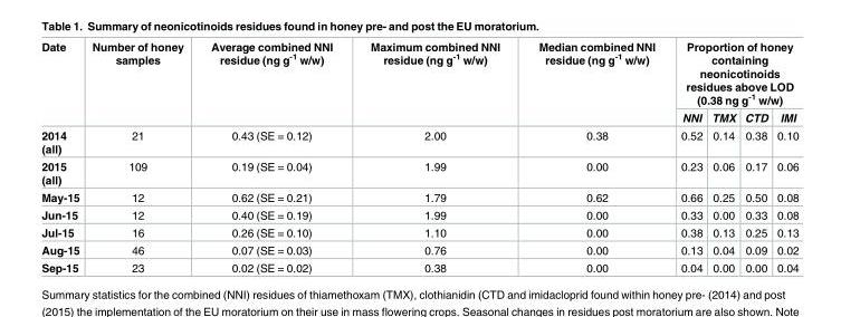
<table><thead><tr><td rowspan="2">Date</td><td rowspan="2">Number of honey samples</td><td rowspan="2">Average combined NNI residue (ng g<sup>-1</sup> w/w)</td><td rowspan="2">Maximum combined NNI residue (ng g<sup>-1</sup> w/w)</td><td rowspan="2">Median combined NNI residue (ng g<sup>-1</sup> w/w)</td><td colspan="4">Proportion of honey containing neonicotinoids residues above LOD (0.38 ng g<sup>-1</sup> w/w)</td></tr><tr><td>NNI</td><td>TMX</td><td>CTD</td><td>IMI</td></tr></thead><tbody><tr><td>2014 (all)</td><td>21</td><td>0.43 (SE = 0.12)</td><td>2.00</td><td>0.38</td><td>0.52</td><td>0.14</td><td>0.38</td><td>0.10</td></tr><tr><td>2015 (all)</td><td>109</td><td>0.19 (SE = 0.04)</td><td>1.99</td><td>0.00</td><td>0.23</td><td>0.06</td><td>0.17</td><td>0.06</td></tr><tr><td>May-15</td><td>12</td><td>0.62 (SE = 0.21)</td><td>1.79</td><td>0.62</td><td>0.66</td><td>0.25</td><td>0.50</td><td>0.08</td></tr><tr><td>Jun-15</td><td>12</td><td>0.40 (SE = 0.19)</td><td>1.99</td><td>0.00</td><td>0.33</td><td>0.00</td><td>0.33</td><td>0.08</td></tr><tr><td>Jul-15</td><td>16</td><td>0.26 (SE = 0.10)</td><td>1.10</td><td>0.00</td><td>0.38</td><td>0.13</td><td>0.25</td><td>0.13</td></tr><tr><td>Aug-15</td><td>46</td><td>0.07 (SE = 0.03)</td><td>0.76</td><td>0.00</td><td>0.13</td><td>0.04</td><td>0.09</td><td>0.02</td></tr><tr><td>Sep-15</td><td>23</td><td>0.02 (SE = 0.02)</td><td>0.38</td><td>0.00</td><td>0.04</td><td>0.00</td><td>0.00</td><td>0.04</td></tr></tbody></table>